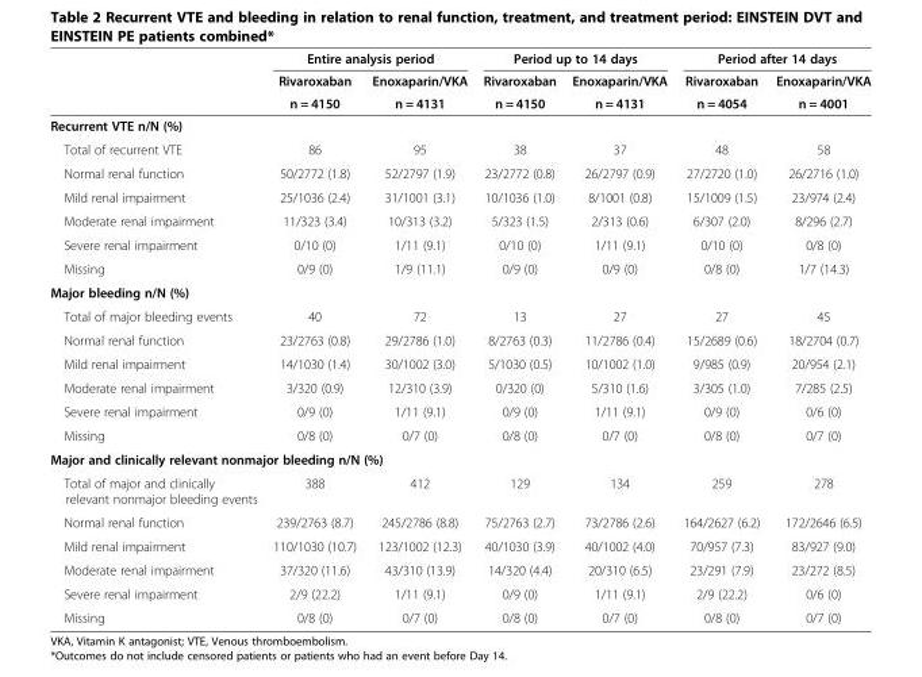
<table><thead><tr><td rowspan="3"></td><td colspan="2">Entire analysis period</td><td colspan="2">Period up to 14 days</td><td colspan="2">Period after 14 days</td></tr><tr><td rowspan="2">Rivaroxaban n = 4150</td><td rowspan="2">Enoxaparin/VKA n = 4131</td><td rowspan="2">Rivaroxaban n = 4150</td><td rowspan="2">Enoxaparin/VKA n = 4131</td><td rowspan="2">Rivaroxaban n = 4054</td><td rowspan="2">Enoxaparin/VKA n = 4001</td></tr><tr></tr></thead><tbody><tr><td colspan="7">Recurrent VTE n/N (%)</td></tr><tr><td>Total of recurrent VTE</td><td>86</td><td>95</td><td>38</td><td>37</td><td>48</td><td>58</td></tr><tr><td>Normal renal function</td><td>50/2772 (1.8)</td><td>52/2797 (1.9)</td><td>23/2772 (0.8)</td><td>26/2797 (0.9)</td><td>27/2720 (1.0)</td><td>26/2716 (1.0)</td></tr><tr><td>Mild renal impairment</td><td>25/1036 (2.4)</td><td>31/1001 (3.1)</td><td>10/1036 (1.0)</td><td>8/1001 (0.8)</td><td>15/1009 (1.5)</td><td>23/974 (2.4)</td></tr><tr><td>Moderate renal impairment</td><td>11/323 (3.4)</td><td>10/313 (3.2)</td><td>5/323 (1.5)</td><td>2/313 (0.6)</td><td>6/307 (2.0)</td><td>8/296 (2.7)</td></tr><tr><td>Severe renal impairment</td><td>0/10 (0)</td><td>1/11 (9.1)</td><td>0/10 (0)</td><td>1/11 (9.1)</td><td>0/10 (0)</td><td>0/8 (0)</td></tr><tr><td>Missing</td><td>0/9 (0)</td><td>1/9 (11.1)</td><td>0/9 (0)</td><td>0/9 (0)</td><td>0/8 (0)</td><td>1/7 (14.3)</td></tr><tr><td colspan="7">Major bleeding n/N (%)</td></tr><tr><td>Total of major bleeding events</td><td>40</td><td>72</td><td>13</td><td>27</td><td>27</td><td>45</td></tr><tr><td>Normal renal function</td><td>23/2763 (0.8)</td><td>29/2786 (1.0)</td><td>8/2763 (0.3)</td><td>11/2786 (0.4)</td><td>15/2689 (0.6)</td><td>18/2704 (0.7)</td></tr><tr><td>Mild renal impairment</td><td>14/1030 (1.4)</td><td>30/1002 (3.0)</td><td>5/1030 (0.5)</td><td>10/1002 (1.0)</td><td>9/985 (0.9)</td><td>20/954 (2.1)</td></tr><tr><td>Moderate renal impairment</td><td>3/320 (0.9)</td><td>12/310 (3.9)</td><td>0/320 (0)</td><td>5/310 (1.6)</td><td>3/305 (1.0)</td><td>7/285 (2.5)</td></tr><tr><td>Severe renal impairment</td><td>0/9 (0)</td><td>1/11 (9.1)</td><td>0/9 (0)</td><td>1/11 (9.1)</td><td>0/9 (0)</td><td>0/6 (0)</td></tr><tr><td>Missing</td><td>0/8 (0)</td><td>0/7 (0)</td><td>0/8 (0)</td><td>0/7 (0)</td><td>0/8 (0)</td><td>0/7 (0)</td></tr><tr><td colspan="7">Major and clinically relevant nonmajor bleeding n/N (%)</td></tr><tr><td>Total of major and clinically relevant nonmajor bleeding events</td><td>388</td><td>412</td><td>129</td><td>134</td><td>259</td><td>278</td></tr><tr><td>Normal renal function</td><td>239/2763 (8.7)</td><td>245/2786 (8.8)</td><td>75/2763 (2.7)</td><td>73/2786 (2.6)</td><td>164/2627 (6.2)</td><td>172/2646 (6.5)</td></tr><tr><td>Mild renal impairment</td><td>110/1030 (10.7)</td><td>123/1002 (12.3)</td><td>40/1030 (3.9)</td><td>40/1002 (4.0)</td><td>70/957 (7.3)</td><td>83/927 (9.0)</td></tr><tr><td>Moderate renal impairment</td><td>37/320 (11.6)</td><td>43/310 (13.9)</td><td>14/320 (4.4)</td><td>20/310 (6.5)</td><td>23/291 (7.9)</td><td>23/272 (8.5)</td></tr><tr><td>Severe renal impairment</td><td>2/9 (22.2)</td><td>1/11 (9.1)</td><td>0/9 (0)</td><td>1/11 (9.1)</td><td>2/9 (22.2)</td><td>0/6 (0)</td></tr><tr><td>Missing</td><td>0/8 (0)</td><td>0/7 (0)</td><td>0/8 (0)</td><td>0/7 (0)</td><td>0/8 (0)</td><td>0/7 (0)</td></tr></tbody></table>